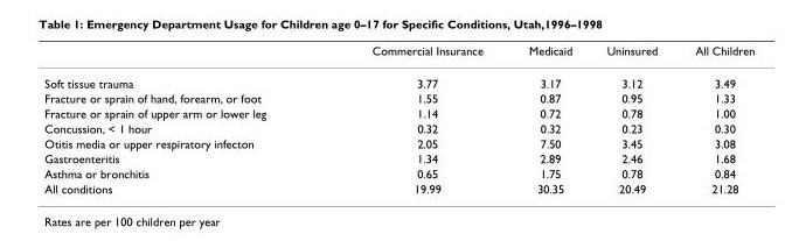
<table><thead><tr><td></td><td>Commercial Insurance</td><td>Medicaid</td><td>Uninsured</td><td>All Children</td></tr></thead><tbody><tr><td>Soft tissue trauma</td><td>3.77</td><td>3.17</td><td>3.12</td><td>3.49</td></tr><tr><td>Fracture or sprain of hand, forearm, or foot</td><td>1.55</td><td>0.87</td><td>0.95</td><td>1.33</td></tr><tr><td>Fracture or sprain of upper arm or lower leg</td><td>1.14</td><td>0.72</td><td>0.78</td><td>1.00</td></tr><tr><td>Concussion, &lt; 1 hour</td><td>0.32</td><td>0.32</td><td>0.23</td><td>0.30</td></tr><tr><td>Otitis media or upper respiratory infecton</td><td>2.05</td><td>7.50</td><td>3.45</td><td>3.08</td></tr><tr><td>Gastroenteritis</td><td>1.34</td><td>2.89</td><td>2.46</td><td>1.68</td></tr><tr><td>Asthma or bronchitis</td><td>0.65</td><td>1.75</td><td>0.78</td><td>0.84</td></tr><tr><td>All conditions</td><td>19.99</td><td>30.35</td><td>20.49</td><td>21.28</td></tr></tbody></table>